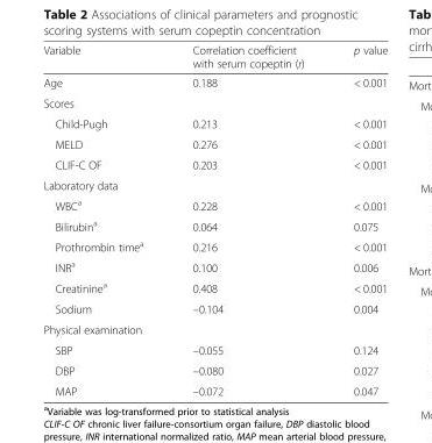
<table><thead><tr><td>Variable</td><td>Correlation coefficient with serum copeptin (r)</td><td>p value</td></tr></thead><tbody><tr><td>Age</td><td>0.188</td><td>&lt; 0.001</td></tr><tr><td colspan="3">Scores</td></tr><tr><td>Child-Pugh</td><td>0.213</td><td>&lt; 0.001</td></tr><tr><td>MELD</td><td>0.276</td><td>&lt; 0.001</td></tr><tr><td>CLIF-C OF</td><td>0.203</td><td>&lt; 0.001</td></tr><tr><td colspan="3">Laboratory data</td></tr><tr><td>WBC<sup>a</sup></td><td>0.228</td><td>&lt; 0.001</td></tr><tr><td>Bilirubin<sup>a</sup></td><td>0.064</td><td>0.075</td></tr><tr><td>Prothrombin time<sup>a</sup></td><td>0.216</td><td>&lt; 0.001</td></tr><tr><td>INR<sup>a</sup></td><td>0.100</td><td>0.006</td></tr><tr><td>Creatinine<sup>a</sup></td><td>0.408</td><td>&lt; 0.001</td></tr><tr><td>Sodium</td><td>–0.104</td><td>0.004</td></tr><tr><td colspan="3">Physical examination</td></tr><tr><td>SBP</td><td>–0.055</td><td>0.124</td></tr><tr><td>DBP</td><td>–0.080</td><td>0.027</td></tr><tr><td>MAP</td><td>–0.072</td><td>0.047</td></tr></tbody></table>